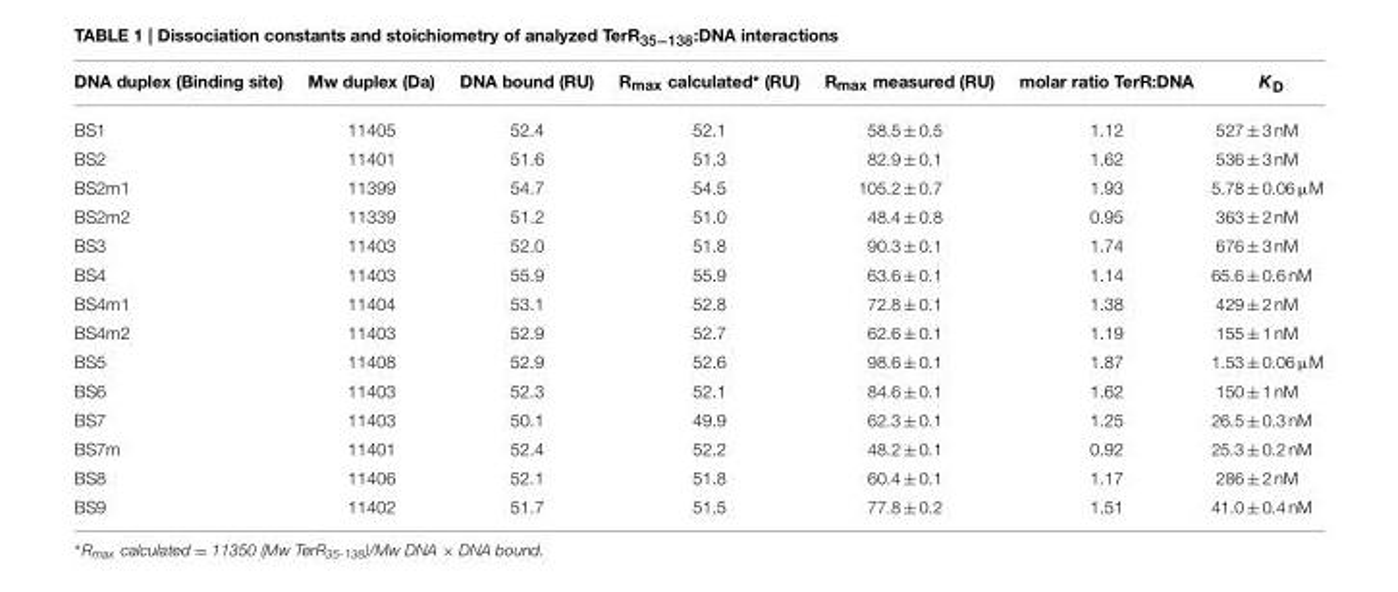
<table><thead><tr><td>DNA duplex (Binding site)</td><td>Mw duplex (Da)</td><td>DNA bound (RU)</td><td>R<sub>max</sub> calculated* (RU)</td><td>R<sub>max</sub> measured (RU)</td><td>molar ratio TerR:DNA</td><td>K<sub>D</sub></td></tr></thead><tbody><tr><td>BS1</td><td>11405</td><td>52.4</td><td>52.1</td><td>58.5 ± 0.5</td><td>1.12</td><td>527 ± 3 nM</td></tr><tr><td>BS2</td><td>11401</td><td>51.6</td><td>51.3</td><td>82.9 ± 0.1</td><td>1.62</td><td>536 ± 3 nM</td></tr><tr><td>BS2m1</td><td>11399</td><td>54.7</td><td>54.5</td><td>105.2 ± 0.7</td><td>1.93</td><td>5.78 ± 0.06 µM</td></tr><tr><td>BS2m2</td><td>11339</td><td>51.2</td><td>51.0</td><td>48.4 ± 0.8</td><td>0.95</td><td>363 ± 2 nM</td></tr><tr><td>BS3</td><td>11403</td><td>52.0</td><td>51.8</td><td>90.3 ± 0.1</td><td>1.74</td><td>676 ± 3 nM</td></tr><tr><td>BS4</td><td>11403</td><td>55.9</td><td>55.9</td><td>63.6 ± 0.1</td><td>1.14</td><td>65.6 ± 0.6 nM</td></tr><tr><td>BS4m1</td><td>11404</td><td>53.1</td><td>52.8</td><td>72.8 ± 0.1</td><td>1.38</td><td>429 ± 2 nM</td></tr><tr><td>BS4m2</td><td>11403</td><td>52.9</td><td>52.7</td><td>62.6 ± 0.1</td><td>1.19</td><td>155 ± 1 nM</td></tr><tr><td>BS5</td><td>11408</td><td>52.9</td><td>52.6</td><td>98.6 ± 0.1</td><td>1.87</td><td>1.53 ± 0.06 µM</td></tr><tr><td>BS6</td><td>11403</td><td>52.3</td><td>52.1</td><td>84.6 ± 0.1</td><td>1.62</td><td>150 ± 1 nM</td></tr><tr><td>BS7</td><td>11403</td><td>50.1</td><td>49.9</td><td>62.3 ± 0.1</td><td>1.25</td><td>26.5 ± 0.3 nM</td></tr><tr><td>BS7m</td><td>11401</td><td>52.4</td><td>52.2</td><td>48.2 ± 0.1</td><td>0.92</td><td>25.3 ± 0.2 nM</td></tr><tr><td>BS8</td><td>11406</td><td>52.1</td><td>51.8</td><td>60.4 ± 0.1</td><td>1.17</td><td>286 ± 2 nM</td></tr><tr><td>BS9</td><td>11402</td><td>51.7</td><td>51.5</td><td>77.8 ± 0.2</td><td>1.51</td><td>41.0 ± 0.4 nM</td></tr></tbody></table>